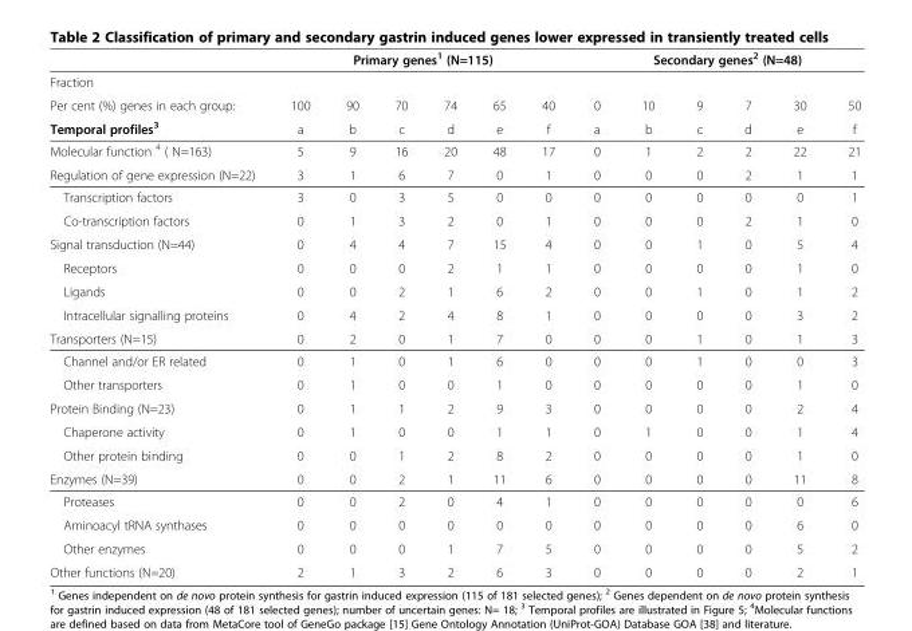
<table><thead><tr><td></td><td colspan="6">Primary genes<sup>1</sup> (N=115)</td><td colspan="6">Secondary genes<sup>2</sup> (N=48)</td></tr><tr><td colspan="13">Fraction</td></tr><tr><td>Per cent (%) genes in each group:</td><td>100</td><td>90</td><td>70</td><td>74</td><td>65</td><td>40</td><td>0</td><td>10</td><td>9</td><td>7</td><td>30</td><td>50</td></tr></thead><tbody><tr><td>Temporal profiles<sup>3</sup></td><td>a</td><td>b</td><td>c</td><td>d</td><td>e</td><td>f</td><td>a</td><td>b</td><td>c</td><td>d</td><td>e</td><td>f</td></tr><tr><td>Molecular function <sup>4</sup> ( N=163)</td><td>5</td><td>9</td><td>16</td><td>20</td><td>48</td><td>17</td><td>0</td><td>1</td><td>2</td><td>2</td><td>22</td><td>21</td></tr><tr><td>Regulation of gene expression (N=22)</td><td>3</td><td>1</td><td>6</td><td>7</td><td>0</td><td>1</td><td>0</td><td>0</td><td>0</td><td>2</td><td>1</td><td>1</td></tr><tr><td>Transcription factors</td><td>3</td><td>0</td><td>3</td><td>5</td><td>0</td><td>0</td><td>0</td><td>0</td><td>0</td><td>0</td><td>0</td><td>1</td></tr><tr><td>Co-transcription factors</td><td>0</td><td>1</td><td>3</td><td>2</td><td>0</td><td>1</td><td>0</td><td>0</td><td>0</td><td>2</td><td>1</td><td>0</td></tr><tr><td>Signal transduction (N=44)</td><td>0</td><td>4</td><td>4</td><td>7</td><td>15</td><td>4</td><td>0</td><td>0</td><td>1</td><td>0</td><td>5</td><td>4</td></tr><tr><td>Receptors</td><td>0</td><td>0</td><td>0</td><td>2</td><td>1</td><td>1</td><td>0</td><td>0</td><td>0</td><td>0</td><td>1</td><td>0</td></tr><tr><td>Ligands</td><td>0</td><td>0</td><td>2</td><td>1</td><td>6</td><td>2</td><td>0</td><td>0</td><td>1</td><td>0</td><td>1</td><td>2</td></tr><tr><td>Intracellular signalling proteins</td><td>0</td><td>4</td><td>2</td><td>4</td><td>8</td><td>1</td><td>0</td><td>0</td><td>0</td><td>0</td><td>3</td><td>2</td></tr><tr><td>Transporters (N=15)</td><td>0</td><td>2</td><td>0</td><td>1</td><td>7</td><td>0</td><td>0</td><td>0</td><td>1</td><td>0</td><td>1</td><td>3</td></tr><tr><td>Channel and/or ER related</td><td>0</td><td>1</td><td>0</td><td>1</td><td>6</td><td>0</td><td>0</td><td>0</td><td>1</td><td>0</td><td>0</td><td>3</td></tr><tr><td>Other transporters</td><td>0</td><td>1</td><td>0</td><td>0</td><td>1</td><td>0</td><td>0</td><td>0</td><td>0</td><td>0</td><td>1</td><td>0</td></tr><tr><td>Protein Binding (N=23)</td><td>0</td><td>1</td><td>1</td><td>2</td><td>9</td><td>3</td><td>0</td><td>0</td><td>0</td><td>0</td><td>2</td><td>4</td></tr><tr><td>Chaperone activity</td><td>0</td><td>1</td><td>0</td><td>0</td><td>1</td><td>1</td><td>0</td><td>1</td><td>0</td><td>0</td><td>1</td><td>4</td></tr><tr><td>Other protein binding</td><td>0</td><td>0</td><td>1</td><td>2</td><td>8</td><td>2</td><td>0</td><td>0</td><td>0</td><td>0</td><td>1</td><td>0</td></tr><tr><td>Enzymes (N=39)</td><td>0</td><td>0</td><td>2</td><td>1</td><td>11</td><td>6</td><td>0</td><td>0</td><td>0</td><td>0</td><td>11</td><td>8</td></tr><tr><td>Proteases</td><td>0</td><td>0</td><td>2</td><td>0</td><td>4</td><td>1</td><td>0</td><td>0</td><td>0</td><td>0</td><td>0</td><td>6</td></tr><tr><td>Aminoacyl tRNA synthases</td><td>0</td><td>0</td><td>0</td><td>0</td><td>0</td><td>0</td><td>0</td><td>0</td><td>0</td><td>0</td><td>6</td><td>0</td></tr><tr><td>Other enzymes</td><td>0</td><td>0</td><td>0</td><td>1</td><td>7</td><td>5</td><td>0</td><td>0</td><td>0</td><td>0</td><td>5</td><td>2</td></tr><tr><td>Other functions (N=20)</td><td>2</td><td>1</td><td>3</td><td>2</td><td>6</td><td>3</td><td>0</td><td>0</td><td>0</td><td>0</td><td>2</td><td>1</td></tr></tbody></table>